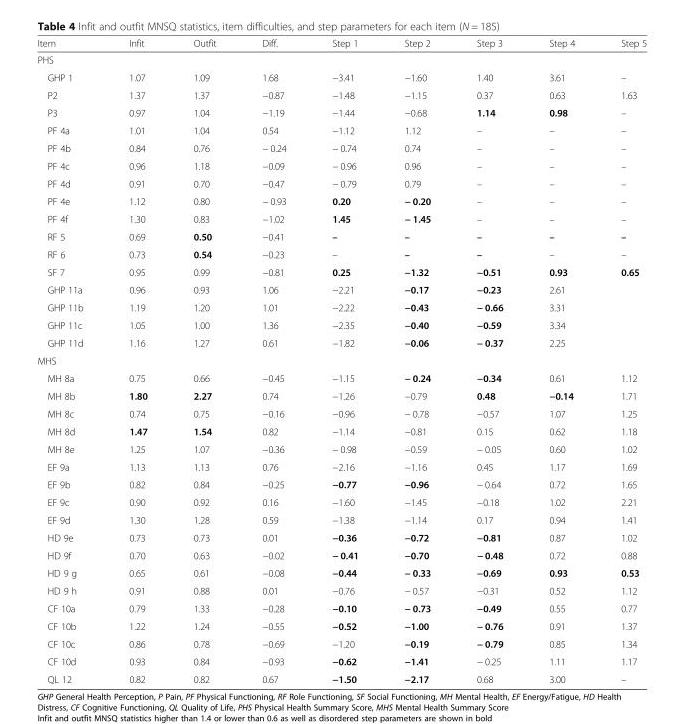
<table><thead><tr><td>Item</td><td>Infit</td><td>Outfit</td><td>Diff.</td><td>Step 1</td><td>Step 2</td><td>Step 3</td><td>Step 4</td><td>Step 5</td></tr></thead><tbody><tr><td colspan="9">PHS</td></tr><tr><td>GHP 1</td><td>1.07</td><td>1.09</td><td>1.68</td><td>−3.41</td><td>−1.60</td><td>1.40</td><td>3.61</td><td>–</td></tr><tr><td>P2</td><td>1.37</td><td>1.37</td><td>−0.87</td><td>−1.48</td><td>−1.15</td><td>0.37</td><td>0.63</td><td>1.63</td></tr><tr><td>P3</td><td>0.97</td><td>1.04</td><td>−1.19</td><td>−1.44</td><td>−0.68</td><td>1.14</td><td>0.98</td><td>–</td></tr><tr><td>PF 4a</td><td>1.01</td><td>1.04</td><td>0.54</td><td>−1.12</td><td>1.12</td><td>–</td><td>–</td><td>–</td></tr><tr><td>PF 4b</td><td>0.84</td><td>0.76</td><td>− 0.24</td><td>− 0.74</td><td>0.74</td><td>–</td><td>–</td><td>–</td></tr><tr><td>PF 4c</td><td>0.96</td><td>1.18</td><td>−0.09</td><td>− 0.96</td><td>0.96</td><td>–</td><td>–</td><td>–</td></tr><tr><td>PF 4d</td><td>0.91</td><td>0.70</td><td>−0.47</td><td>− 0.79</td><td>0.79</td><td>–</td><td>–</td><td>–</td></tr><tr><td>PF 4e</td><td>1.12</td><td>0.80</td><td>− 0.93</td><td>0.20</td><td>− 0.20</td><td>–</td><td>–</td><td>–</td></tr><tr><td>PF 4f</td><td>1.30</td><td>0.83</td><td>−1.02</td><td>1.45</td><td>− 1.45</td><td>–</td><td>–</td><td>–</td></tr><tr><td>RF 5</td><td>0.69</td><td>0.50</td><td>−0.41</td><td>–</td><td>–</td><td>–</td><td>–</td><td>–</td></tr><tr><td>RF 6</td><td>0.73</td><td>0.54</td><td>−0.23</td><td>–</td><td>–</td><td>–</td><td>–</td><td>–</td></tr><tr><td>SF 7</td><td>0.95</td><td>0.99</td><td>−0.81</td><td>0.25</td><td>−1.32</td><td>−0.51</td><td>0.93</td><td>0.65</td></tr><tr><td>GHP 11a</td><td>0.96</td><td>0.93</td><td>1.06</td><td>−2.21</td><td>−0.17</td><td>−0.23</td><td>2.61</td><td></td></tr><tr><td>GHP 11b</td><td>1.19</td><td>1.20</td><td>1.01</td><td>−2.22</td><td>−0.43</td><td>− 0.66</td><td>3.31</td><td></td></tr><tr><td>GHP 11c</td><td>1.05</td><td>1.00</td><td>1.36</td><td>−2.35</td><td>−0.40</td><td>−0.59</td><td>3.34</td><td></td></tr><tr><td>GHP 11d</td><td>1.16</td><td>1.27</td><td>0.61</td><td>−1.82</td><td>−0.06</td><td>− 0.37</td><td>2.25</td><td></td></tr><tr><td colspan="9">MHS</td></tr><tr><td>MH 8a</td><td>0.75</td><td>0.66</td><td>−0.45</td><td>−1.15</td><td>− 0.24</td><td>−0.34</td><td>0.61</td><td>1.12</td></tr><tr><td>MH 8b</td><td>1.80</td><td>2.27</td><td>0.74</td><td>−1.26</td><td>−0.79</td><td>0.48</td><td>−0.14</td><td>1.71</td></tr><tr><td>MH 8c</td><td>0.74</td><td>0.75</td><td>−0.16</td><td>−0.96</td><td>− 0.78</td><td>−0.57</td><td>1.07</td><td>1.25</td></tr><tr><td>MH 8d</td><td>1.47</td><td>1.54</td><td>0.82</td><td>−1.14</td><td>−0.81</td><td>0.15</td><td>0.62</td><td>1.18</td></tr><tr><td>MH 8e</td><td>1.25</td><td>1.07</td><td>−0.36</td><td>− 0.98</td><td>−0.59</td><td>− 0.05</td><td>0.60</td><td>1.02</td></tr><tr><td>EF 9a</td><td>1.13</td><td>1.13</td><td>0.76</td><td>−2.16</td><td>−1.16</td><td>0.45</td><td>1.17</td><td>1.69</td></tr><tr><td>EF 9b</td><td>0.82</td><td>0.84</td><td>−0.25</td><td>−0.77</td><td>−0.96</td><td>− 0.64</td><td>0.72</td><td>1.65</td></tr><tr><td>EF 9c</td><td>0.90</td><td>0.92</td><td>0.16</td><td>−1.60</td><td>−1.45</td><td>−0.18</td><td>1.02</td><td>2.21</td></tr><tr><td>EF 9d</td><td>1.30</td><td>1.28</td><td>0.59</td><td>−1.38</td><td>−1.14</td><td>0.17</td><td>0.94</td><td>1.41</td></tr><tr><td>HD 9e</td><td>0.73</td><td>0.73</td><td>0.01</td><td>−0.36</td><td>−0.72</td><td>−0.81</td><td>0.87</td><td>1.02</td></tr><tr><td>HD 9f</td><td>0.70</td><td>0.63</td><td>−0.02</td><td>− 0.41</td><td>−0.70</td><td>− 0.48</td><td>0.72</td><td>0.88</td></tr><tr><td>HD 9 g</td><td>0.65</td><td>0.61</td><td>−0.08</td><td>−0.44</td><td>− 0.33</td><td>−0.69</td><td>0.93</td><td>0.53</td></tr><tr><td>HD 9 h</td><td>0.91</td><td>0.88</td><td>0.01</td><td>−0.76</td><td>− 0.57</td><td>−0.31</td><td>0.52</td><td>1.12</td></tr><tr><td>CF 10a</td><td>0.79</td><td>1.33</td><td>−0.28</td><td>−0.10</td><td>− 0.73</td><td>−0.49</td><td>0.55</td><td>0.77</td></tr><tr><td>CF 10b</td><td>1.22</td><td>1.24</td><td>−0.55</td><td>−0.52</td><td>−1.00</td><td>− 0.76</td><td>0.91</td><td>1.37</td></tr><tr><td>CF 10c</td><td>0.86</td><td>0.78</td><td>−0.69</td><td>−1.20</td><td>−0.19</td><td>− 0.79</td><td>0.85</td><td>1.34</td></tr><tr><td>CF 10d</td><td>0.93</td><td>0.84</td><td>−0.93</td><td>−0.62</td><td>−1.41</td><td>− 0.25</td><td>1.11</td><td>1.17</td></tr><tr><td>QL 12</td><td>0.82</td><td>0.82</td><td>0.67</td><td>−1.50</td><td>−2.17</td><td>0.68</td><td>3.00</td><td>–</td></tr></tbody></table>